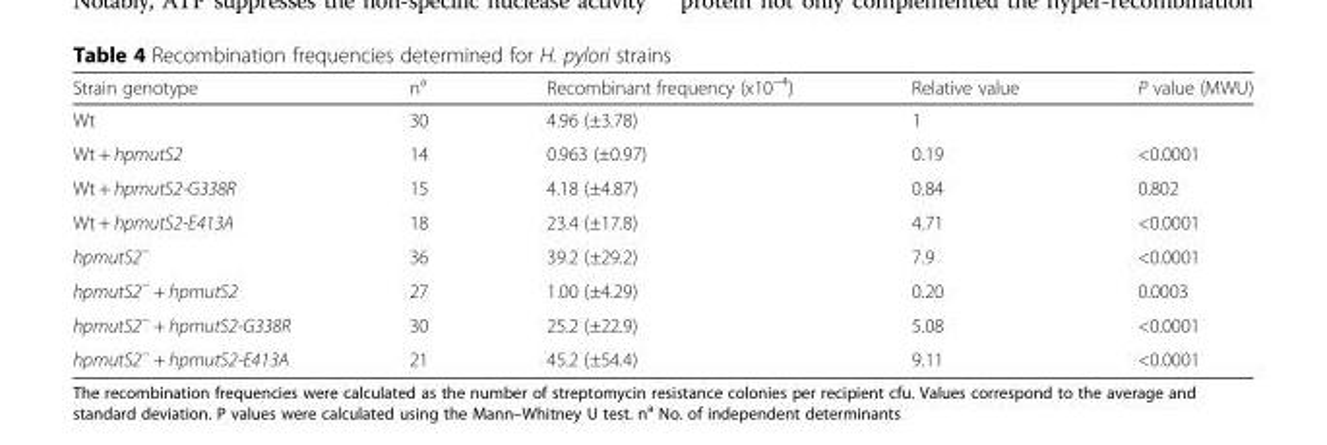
<table><thead><tr><td>Strain genotype</td><td>n<sup>a</sup></td><td>Recombinant frequency (x10<sup>−4</sup>)</td><td>Relative value</td><td>P value (MWU)</td></tr></thead><tbody><tr><td>Wt</td><td>30</td><td>4.96 (±3.78)</td><td>1</td><td></td></tr><tr><td>Wt + hpmutS2</td><td>14</td><td>0.963 (±0.97)</td><td>0.19</td><td>&lt;0.0001</td></tr><tr><td>Wt + hpmutS2-G338R</td><td>15</td><td>4.18 (±4.87)</td><td>0.84</td><td>0.802</td></tr><tr><td>Wt + hpmutS2-E413A</td><td>18</td><td>23.4 (±17.8)</td><td>4.71</td><td>&lt;0.0001</td></tr><tr><td>hpmutS2<sup>−</sup></td><td>36</td><td>39.2 (±29.2)</td><td>7.9</td><td>&lt;0.0001</td></tr><tr><td>hpmutS2<sup>−</sup> + hpmutS2</td><td>27</td><td>1.00 (±4.29)</td><td>0.20</td><td>0.0003</td></tr><tr><td>hpmutS2<sup>−</sup> + hpmutS2-G338R</td><td>30</td><td>25.2 (±22.9)</td><td>5.08</td><td>&lt;0.0001</td></tr><tr><td>hpmutS2<sup>−</sup> + hpmutS2-E413A</td><td>21</td><td>45.2 (±54.4)</td><td>9.11</td><td>&lt;0.0001</td></tr></tbody></table>